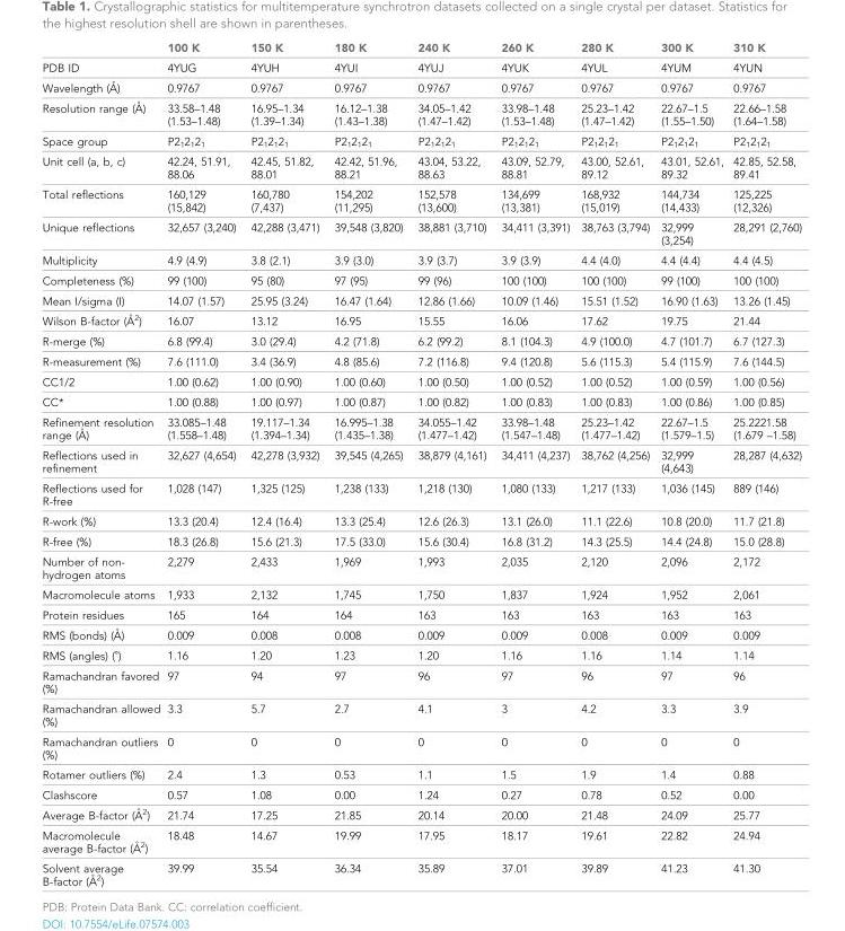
<table><thead><tr><td></td><td>100 K</td><td>150 K</td><td>180 K</td><td>240 K</td><td>260 K</td><td>280 K</td><td>300 K</td><td>310 K</td></tr></thead><tbody><tr><td>PDB ID</td><td>4YUG</td><td>4YUH</td><td>4YUI</td><td>4YUJ</td><td>4YUK</td><td>4YUL</td><td>4YUM</td><td>4YUN</td></tr><tr><td>Wavelength (A˚ )</td><td>0.9767</td><td>0.9767</td><td>0.9767</td><td>0.9767</td><td>0.9767</td><td>0.9767</td><td>0.9767</td><td>0.9767</td></tr><tr><td>Resolution range (A˚ )</td><td>33.58–1.48 (1.53–1.48)</td><td>16.95–1.34 (1.39–1.34)</td><td>16.12–1.38 (1.43–1.38)</td><td>34.05–1.42 (1.47–1.42)</td><td>33.98–1.48 (1.53–1.48)</td><td>25.23–1.42 (1.47–1.42)</td><td>22.67–1.5 (1.55–1.50)</td><td>22.66–1.58 (1.64–1.58)</td></tr><tr><td>Space group</td><td>P2<sub>1</sub>2<sub>1</sub>2<sub>1</sub></td><td>P2<sub>1</sub>2<sub>1</sub>2<sub>1</sub></td><td>P2<sub>1</sub>2<sub>1</sub>2<sub>1</sub></td><td>P2<sub>1</sub>2<sub>1</sub>2<sub>1</sub></td><td>P2<sub>1</sub>2<sub>1</sub>2<sub>1</sub></td><td>P2<sub>1</sub>2<sub>1</sub>2<sub>1</sub></td><td>P2<sub>1</sub>2<sub>1</sub>2<sub>1</sub></td><td>P2<sub>1</sub>2<sub>1</sub>2<sub>1</sub></td></tr><tr><td>Unit cell (a, b, c)</td><td>42.24, 51.91, 88.06</td><td>42.45, 51.82, 88.01</td><td>42.42, 51.96, 88.21</td><td>43.04, 53.22, 88.63</td><td>43.09, 52.79, 88.81</td><td>43.00, 52.61, 89.12</td><td>43.01, 52.61, 89.32</td><td>42.85, 52.58, 89.41</td></tr><tr><td>Total reflections</td><td>160,129 (15,842)</td><td>160,780 (7,437)</td><td>154,202 (11,295)</td><td>152,578 (13,600)</td><td>134,699 (13,381)</td><td>168,932 (15,019)</td><td>144,734 (14,433)</td><td>125,225 (12,326)</td></tr><tr><td>Unique reflections</td><td>32,657 (3,240)</td><td>42,288 (3,471)</td><td>39,548 (3,820)</td><td>38,881 (3,710)</td><td>34,411 (3,391)</td><td>38,763 (3,794)</td><td>32,999 (3,254)</td><td>28,291 (2,760)</td></tr><tr><td>Multiplicity</td><td>4.9 (4.9)</td><td>3.8 (2.1)</td><td>3.9 (3.0)</td><td>3.9 (3.7)</td><td>3.9 (3.9)</td><td>4.4 (4.0)</td><td>4.4 (4.4)</td><td>4.4 (4.5)</td></tr><tr><td>Completeness (%)</td><td>99 (100)</td><td>95 (80)</td><td>97 (95)</td><td>99 (96)</td><td>100 (100)</td><td>100 (100)</td><td>99 (100)</td><td>100 (100)</td></tr><tr><td>Mean I/sigma (I)</td><td>14.07 (1.57)</td><td>25.95 (3.24)</td><td>16.47 (1.64)</td><td>12.86 (1.66)</td><td>10.09 (1.46)</td><td>15.51 (1.52)</td><td>16.90 (1.63)</td><td>13.26 (1.45)</td></tr><tr><td>Wilson B-factor (A˚ 2)</td><td>16.07</td><td>13.12</td><td>16.95</td><td>15.55</td><td>16.06</td><td>17.62</td><td>19.75</td><td>21.44</td></tr><tr><td>R-merge (%)</td><td>6.8 (99.4)</td><td>3.0 (29.4)</td><td>4.2 (71.8)</td><td>6.2 (99.2)</td><td>8.1 (104.3)</td><td>4.9 (100.0)</td><td>4.7 (101.7)</td><td>6.7 (127.3)</td></tr><tr><td>R-measurement (%)</td><td>7.6 (111.0)</td><td>3.4 (36.9)</td><td>4.8 (85.6)</td><td>7.2 (116.8)</td><td>9.4 (120.8)</td><td>5.6 (115.3)</td><td>5.4 (115.9)</td><td>7.6 (144.5)</td></tr><tr><td>CC1/2</td><td>1.00 (0.62)</td><td>1.00 (0.90)</td><td>1.00 (0.60)</td><td>1.00 (0.50)</td><td>1.00 (0.52)</td><td>1.00 (0.52)</td><td>1.00 (0.59)</td><td>1.00 (0.56)</td></tr><tr><td>CC*</td><td>1.00 (0.88)</td><td>1.00 (0.97)</td><td>1.00 (0.87)</td><td>1.00 (0.82)</td><td>1.00 (0.83)</td><td>1.00 (0.83)</td><td>1.00 (0.86)</td><td>1.00 (0.85)</td></tr><tr><td>Refinement resolution range (A˚ )</td><td>33.085–1.48 (1.558–1.48)</td><td>19.117–1.34 (1.394–1.34)</td><td>16.995–1.38 (1.435–1.38)</td><td>34.055–1.42 (1.477–1.42)</td><td>33.98–1.48 (1.547–1.48)</td><td>25.23–1.42 (1.477–1.42)</td><td>22.67–1.5 (1.579–1.5)</td><td>25.2221.58 (1.679 –1.58)</td></tr><tr><td>Reflections used in refinement</td><td>32,627 (4,654)</td><td>42,278 (3,932)</td><td>39,545 (4,265)</td><td>38,879 (4,161)</td><td>34,411 (4,237)</td><td>38,762 (4,256)</td><td>32,999 (4,643)</td><td>28,287 (4,632)</td></tr><tr><td>Reflections used for R-free</td><td>1,028 (147)</td><td>1,325 (125)</td><td>1,238 (133)</td><td>1,218 (130)</td><td>1,080 (133)</td><td>1,217 (133)</td><td>1,036 (145)</td><td>889 (146)</td></tr><tr><td>R-work (%)</td><td>13.3 (20.4)</td><td>12.4 (16.4)</td><td>13.3 (25.4)</td><td>12.6 (26.3)</td><td>13.1 (26.0)</td><td>11.1 (22.6)</td><td>10.8 (20.0)</td><td>11.7 (21.8)</td></tr><tr><td>R-free (%)</td><td>18.3 (26.8)</td><td>15.6 (21.3)</td><td>17.5 (33.0)</td><td>15.6 (30.4)</td><td>16.8 (31.2)</td><td>14.3 (25.5)</td><td>14.4 (24.8)</td><td>15.0 (28.8)</td></tr><tr><td>Number of non- hydrogen atoms</td><td>2,279</td><td>2,433</td><td>1,969</td><td>1,993</td><td>2,035</td><td>2,120</td><td>2,096</td><td>2,172</td></tr><tr><td>Macromolecule atoms</td><td>1,933</td><td>2,132</td><td>1,745</td><td>1,750</td><td>1,837</td><td>1,924</td><td>1,952</td><td>2,061</td></tr><tr><td>Protein residues</td><td>165</td><td>164</td><td>164</td><td>163</td><td>163</td><td>163</td><td>163</td><td>163</td></tr><tr><td>RMS (bonds) (A˚ )</td><td>0.009</td><td>0.008</td><td>0.008</td><td>0.009</td><td>0.009</td><td>0.008</td><td>0.009</td><td>0.009</td></tr><tr><td>RMS (angles) (˚)</td><td>1.16</td><td>1.20</td><td>1.23</td><td>1.20</td><td>1.16</td><td>1.16</td><td>1.14</td><td>1.14</td></tr><tr><td>Ramachandran favored (%)</td><td>97</td><td>94</td><td>97</td><td>96</td><td>97</td><td>96</td><td>97</td><td>96</td></tr><tr><td>Ramachandran allowed (%)</td><td>3.3</td><td>5.7</td><td>2.7</td><td>4.1</td><td>3</td><td>4.2</td><td>3.3</td><td>3.9</td></tr><tr><td>Ramachandran outliers (%)</td><td>0</td><td>0</td><td>0</td><td>0</td><td>0</td><td>0</td><td>0</td><td>0</td></tr><tr><td>Rotamer outliers (%)</td><td>2.4</td><td>1.3</td><td>0.53</td><td>1.1</td><td>1.5</td><td>1.9</td><td>1.4</td><td>0.88</td></tr><tr><td>Clashscore</td><td>0.57</td><td>1.08</td><td>0.00</td><td>1.24</td><td>0.27</td><td>0.78</td><td>0.52</td><td>0.00</td></tr><tr><td>Average B-factor (A˚ 2)</td><td>21.74</td><td>17.25</td><td>21.85</td><td>20.14</td><td>20.00</td><td>21.48</td><td>24.09</td><td>25.77</td></tr><tr><td>Macromolecule average B-factor (A˚ 2)</td><td>18.48</td><td>14.67</td><td>19.99</td><td>17.95</td><td>18.17</td><td>19.61</td><td>22.82</td><td>24.94</td></tr><tr><td>Solvent average B-factor (A˚ 2)</td><td>39.99</td><td>35.54</td><td>36.34</td><td>35.89</td><td>37.01</td><td>39.89</td><td>41.23</td><td>41.30</td></tr></tbody></table>